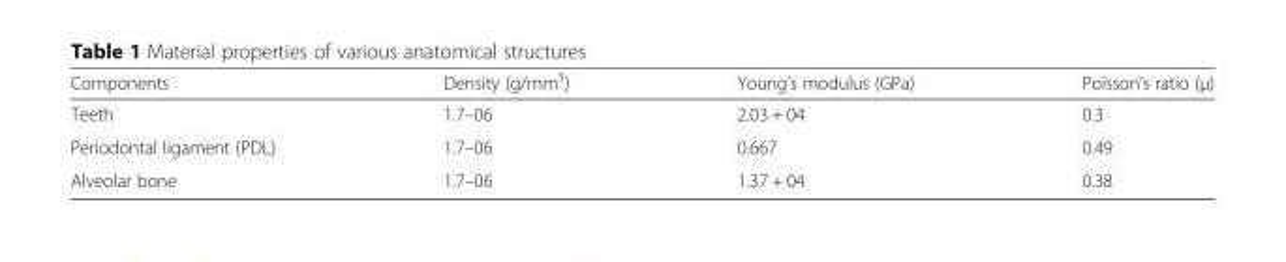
<table><thead><tr><td>Components</td><td>Density (g/mm<sup>3</sup>)</td><td>Young’s modulus (GPa)</td><td>Poisson’s ratio (μ)</td></tr></thead><tbody><tr><td>Teeth</td><td>1.7–06</td><td>2.03 + 04</td><td>0.3</td></tr><tr><td>Periodontal ligament (PDL)</td><td>1.7–06</td><td>0.667</td><td>0.49</td></tr><tr><td>Alveolar bone</td><td>1.7–06</td><td>1.37 + 04</td><td>0.38</td></tr></tbody></table>